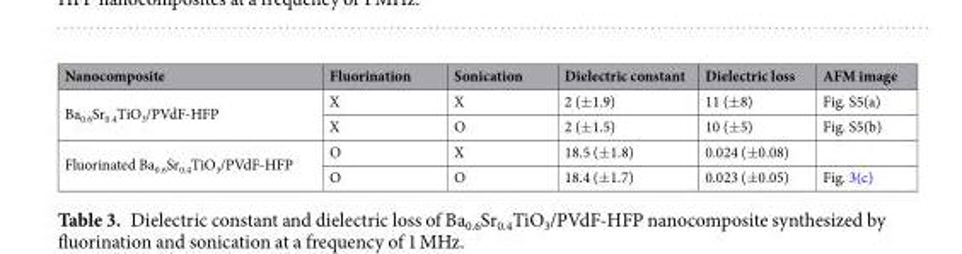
<table><thead><tr><td>Nanocomposite</td><td>Fluorination</td><td>Sonication</td><td>Dielectric constant</td><td>Dielectric loss</td><td>AFM image</td></tr></thead><tbody><tr><td rowspan="2">Ba<sub>0.6</sub>Sr<sub>0.4</sub>TiO<sub>3</sub>/PVdF-HFP</td><td>X</td><td>X</td><td>2 (±1.9)</td><td>11 (±8)</td><td>Fig. S5(a)</td></tr><tr><td>X</td><td>O</td><td>2 (±1.5)</td><td>10 (±5)</td><td>Fig. S5(b)</td></tr><tr><td rowspan="2">Fluorinated Ba<sub>0.6</sub>Sr<sub>0.4</sub>TiO<sub>3</sub>/PVdF-HFP</td><td>O</td><td>X</td><td>18.5 (±1.8)</td><td>0.024 (±0.08)</td><td></td></tr><tr><td>O</td><td>O</td><td>18.4 (±1.7)</td><td>0.023 (±0.05)</td><td>Fig. 3(c)</td></tr></tbody></table>